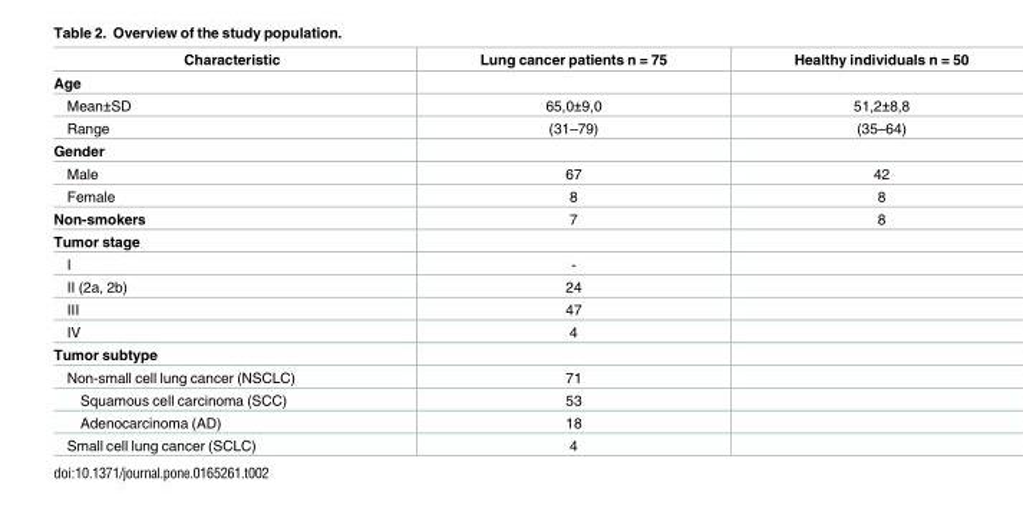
<table><thead><tr><td>Characteristic</td><td>Lung cancer patients n = 75</td><td>Healthy individuals n = 50</td></tr></thead><tbody><tr><td colspan="3">Age</td></tr><tr><td>Mean±SD</td><td>65,0±9,0</td><td>51,2±8,8</td></tr><tr><td>Range</td><td>(31–79)</td><td>(35–64)</td></tr><tr><td colspan="3">Gender</td></tr><tr><td>Male</td><td>67</td><td>42</td></tr><tr><td>Female</td><td>8</td><td>8</td></tr><tr><td>Non-smokers</td><td>7</td><td>8</td></tr><tr><td colspan="3">Tumor stage</td></tr><tr><td>I</td><td>-</td><td></td></tr><tr><td>II (2a, 2b)</td><td>24</td><td></td></tr><tr><td>III</td><td>47</td><td></td></tr><tr><td>IV</td><td>4</td><td></td></tr><tr><td colspan="3">Tumor subtype</td></tr><tr><td>Non-small cell lung cancer (NSCLC)</td><td>71</td><td></td></tr><tr><td>Squamous cell carcinoma (SCC)</td><td>53</td><td></td></tr><tr><td>Adenocarcinoma (AD)</td><td>18</td><td></td></tr><tr><td>Small cell lung cancer (SCLC)</td><td>4</td><td></td></tr></tbody></table>